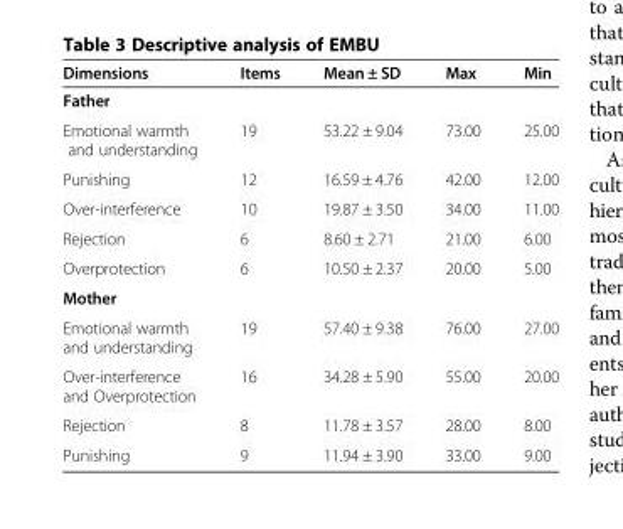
<table><thead><tr><td>Dimensions</td><td>Items</td><td>Mean ± SD</td><td>Max</td><td>Min</td></tr></thead><tbody><tr><td colspan="5">Father</td></tr><tr><td>Emotional warmth and understanding</td><td>19</td><td>53.22 ± 9.04</td><td>73.00</td><td>25.00</td></tr><tr><td>Punishing</td><td>12</td><td>16.59 ± 4.76</td><td>42.00</td><td>12.00</td></tr><tr><td>Over-interference</td><td>10</td><td>19.87 ± 3.50</td><td>34.00</td><td>11.00</td></tr><tr><td>Rejection</td><td>6</td><td>8.60 ± 2.71</td><td>21.00</td><td>6.00</td></tr><tr><td>Overprotection</td><td>6</td><td>10.50 ± 2.37</td><td>20.00</td><td>5.00</td></tr><tr><td colspan="5">Mother</td></tr><tr><td>Emotional warmth and understanding</td><td>19</td><td>57.40 ± 9.38</td><td>76.00</td><td>27.00</td></tr><tr><td>Over-interference and Overprotection</td><td>16</td><td>34.28 ± 5.90</td><td>55.00</td><td>20.00</td></tr><tr><td>Rejection</td><td>8</td><td>11.78 ± 3.57</td><td>28.00</td><td>8.00</td></tr><tr><td>Punishing</td><td>9</td><td>11.94 ± 3.90</td><td>33.00</td><td>9.00</td></tr></tbody></table>